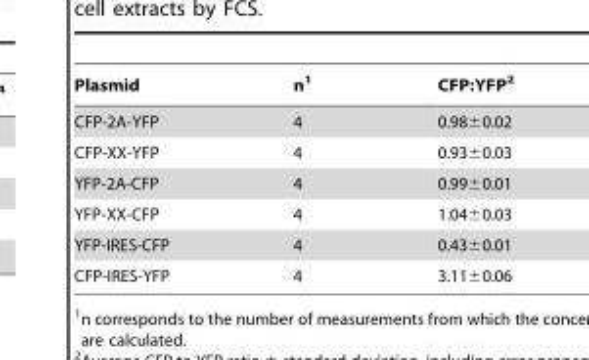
<table><thead><tr><td>Plasmid</td><td>n<sup>1</sup></td><td>CFP:YFP<sup>2</sup></td></tr></thead><tbody><tr><td>CFP-2A-YFP</td><td>4</td><td>0.98±0.02</td></tr><tr><td>CFP-XX-YFP</td><td>4</td><td>0.93±0.03</td></tr><tr><td>YFP-2A-CFP</td><td>4</td><td>0.99±0.01</td></tr><tr><td>YFP-XX-CFP</td><td>4</td><td>1.04±0.03</td></tr><tr><td>YFP-IRES-CFP</td><td>4</td><td>0.43±0.01</td></tr><tr><td>CFP-IRES-YFP</td><td>4</td><td>3.11±0.06</td></tr></tbody></table>